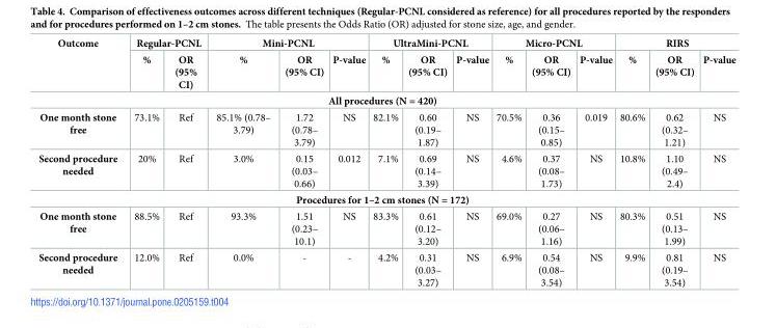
<table><thead><tr><td rowspan="2">Outcome</td><td colspan="2">Regular-PCNL</td><td colspan="3">Mini-PCNL</td><td colspan="3">UltraMini-PCNL</td><td colspan="3">Micro-PCNL</td><td colspan="3">RIRS</td></tr><tr><td>%</td><td>OR (95% CI)</td><td>%</td><td>OR (95% CI)</td><td>P-value</td><td>%</td><td>OR (95% CI)</td><td>P-value</td><td>%</td><td>OR (95% CI)</td><td>P-value</td><td>%</td><td>OR (95% CI)</td><td>P-value</td></tr></thead><tbody><tr><td colspan="15">All procedures (N = 420)</td></tr><tr><td>One month stone free</td><td>73.1%</td><td>Ref</td><td>85.1% (0.78– 3.79)</td><td>1.72 (0.78– 3.79)</td><td>NS</td><td>82.1%</td><td>0.60 (0.19– 1.87)</td><td>NS</td><td>70.5%</td><td>0.36 (0.15– 0.85)</td><td>0.019</td><td>80.6%</td><td>0.62 (0.32– 1.21)</td><td>NS</td></tr><tr><td>Second procedure needed</td><td>20%</td><td>Ref</td><td>3.0%</td><td>0.15 (0.03– 0.66)</td><td>0.012</td><td>7.1%</td><td>0.69 (0.14– 3.39)</td><td>NS</td><td>4.6%</td><td>0.37 (0.08– 1.73)</td><td>NS</td><td>10.8%</td><td>1.10 (0.49– 2.4)</td><td>NS</td></tr><tr><td colspan="15">Procedures for 1–2 cm stones (N = 172)</td></tr><tr><td>One month stone free</td><td>88.5%</td><td>Ref</td><td>93.3%</td><td>1.51 (0.23– 10.1)</td><td>NS</td><td>83.3%</td><td>0.61 (0.12– 3.20)</td><td>NS</td><td>69.0%</td><td>0.27 (0.06– 1.16)</td><td>NS</td><td>80.3%</td><td>0.51 (0.13– 1.99)</td><td>NS</td></tr><tr><td>Second procedure needed</td><td>12.0%</td><td>Ref</td><td>0.0%</td><td>-</td><td>-</td><td>4.2%</td><td>0.31 (0.03– 3.27)</td><td>NS</td><td>6.9%</td><td>0.54 (0.08– 3.54)</td><td>NS</td><td>9.9%</td><td>0.81 (0.19– 3.54)</td><td>NS</td></tr></tbody></table>